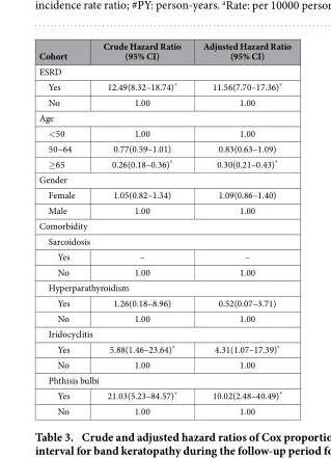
<table><thead><tr><td>Cohort</td><td>Crude Hazard Ratio (95% CI)</td><td>Adjusted Hazard Ratio (95% CI)</td></tr></thead><tbody><tr><td colspan="3">ESRD</td></tr><tr><td>Yes</td><td>12.49(8.32–18.74)*</td><td>11.56(7.70–17.36)*</td></tr><tr><td>No</td><td>1.00</td><td>1.00</td></tr><tr><td colspan="3">Age</td></tr><tr><td>&lt; 50</td><td>1.00</td><td>1.00</td></tr><tr><td>50~64</td><td>0.77(0.59–1.01)</td><td>0.83(0.63–1.09)</td></tr><tr><td>≥ 65</td><td>0.26(0.18–0.36)*</td><td>0.30(0.21–0.43)*</td></tr><tr><td colspan="3">Gender</td></tr><tr><td>Female</td><td>1.05(0.82–1.34)</td><td>1.09(0.86–1.40)</td></tr><tr><td>Male</td><td>1.00</td><td>1.00</td></tr><tr><td colspan="3">Comorbidity</td></tr><tr><td colspan="3">Sarcoidosis</td></tr><tr><td>Yes</td><td>–</td><td>–</td></tr><tr><td>No</td><td>1.00</td><td>1.00</td></tr><tr><td colspan="3">Hyperparathyroidism</td></tr><tr><td>Yes</td><td>1.26(0.18–8.96)</td><td>0.52(0.07–3.71)</td></tr><tr><td>No</td><td>1.00</td><td>1.00</td></tr><tr><td colspan="3">Iridocyclitis</td></tr><tr><td>Yes</td><td>5.88(1.46–23.64)*</td><td>4.31(1.07–17.39)*</td></tr><tr><td>No</td><td>1.00</td><td>1.00</td></tr><tr><td colspan="3">Phthisis bulbi</td></tr><tr><td>Yes</td><td>21.03(5.23–84.57)*</td><td>10.02(2.48–40.49)*</td></tr><tr><td>No</td><td>1.00</td><td>1.00</td></tr></tbody></table>